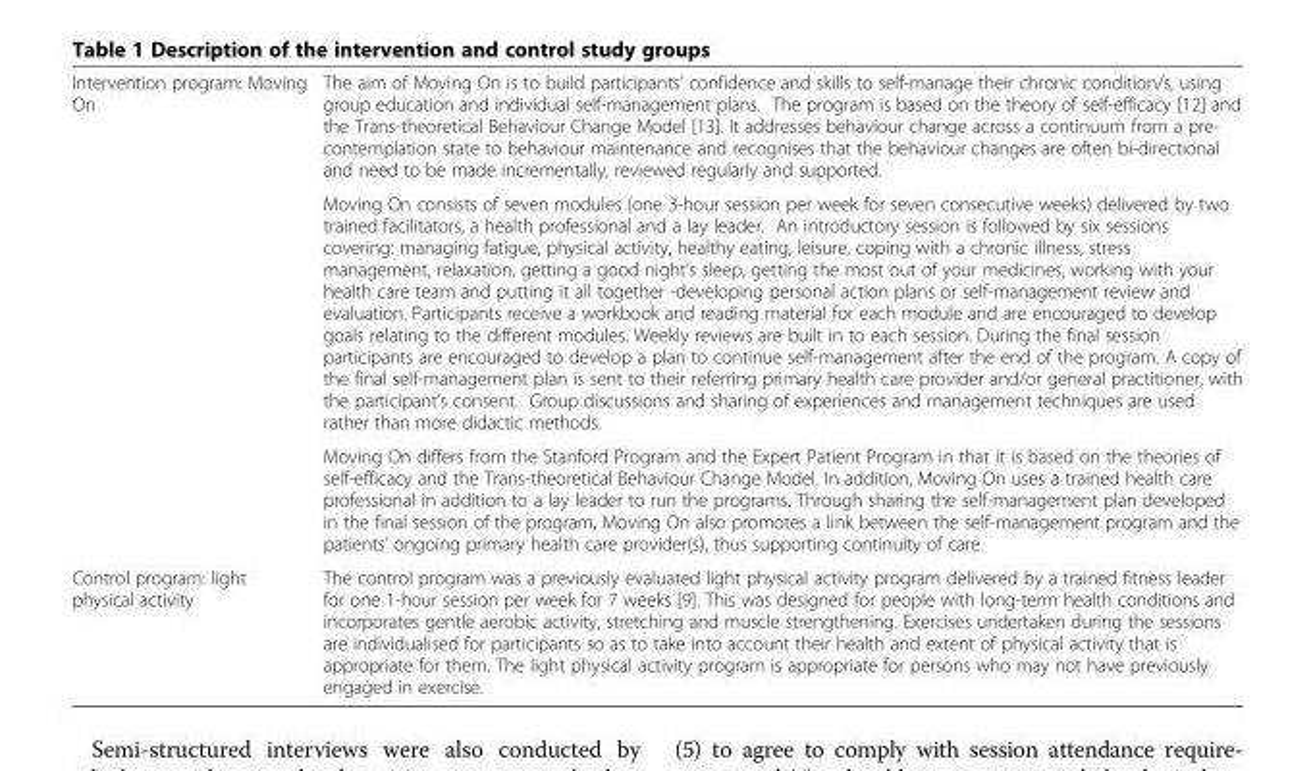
<table><tbody><tr><td rowspan="3">Intervention program: Moving On</td><td>The aim of Moving On is to build participants’ confidence and skills to self-manage their chronic condition/s, using group education and individual self-management plans. The program is based on the theory of self-efficacy [12] and the Trans-theoretical Behaviour Change Model [13]. It addresses behaviour change across a continuum from a pre- contemplation state to behaviour maintenance and recognises that the behaviour changes are often bi-directional and need to be made incrementally, reviewed regularly and supported.</td></tr><tr><td>Moving On consists of seven modules (one 3-hour session per week for seven consecutive weeks) delivered by two trained facilitators, a health professional and a lay leader. An introductory session is followed by six sessions covering: managing fatigue, physical activity, healthy eating, leisure, coping with a chronic illness, stress management, relaxation, getting a good night’s sleep, getting the most out of your medicines, working with your health care team and putting it all together -developing personal action plans or self-management review and evaluation. Participants receive a workbook and reading material for each module and are encouraged to develop goals relating to the different modules. Weekly reviews are built in to each session. During the final session participants are encouraged to develop a plan to continue self-management after the end of the program. A copy of the final self-management plan is sent to their referring primary health care provider and/or general practitioner, with the participant’s consent. Group discussions and sharing of experiences and management techniques are used rather than more didactic methods.</td></tr><tr><td>Moving On differs from the Stanford Program and the Expert Patient Program in that it is based on the theories of self-efficacy and the Trans-theoretical Behaviour Change Model. In addition, Moving On uses a trained health care professional in addition to a lay leader to run the programs. Through sharing the self-management plan developed in the final session of the program, Moving On also promotes a link between the self-management program and the patients’ ongoing primary health care provider(s), thus supporting continuity of care.</td></tr><tr><td>Control program: light physical activity</td><td>The control program was a previously evaluated light physical activity program delivered by a trained fitness leader for one 1-hour session per week for 7 weeks [9]. This was designed for people with long-term health conditions and incorporates gentle aerobic activity, stretching and muscle strengthening. Exercises undertaken during the sessions are individualised for participants so as to take into account their health and extent of physical activity that is appropriate for them. The light physical activity program is appropriate for persons who may not have previously engaged in exercise.</td></tr></tbody></table>